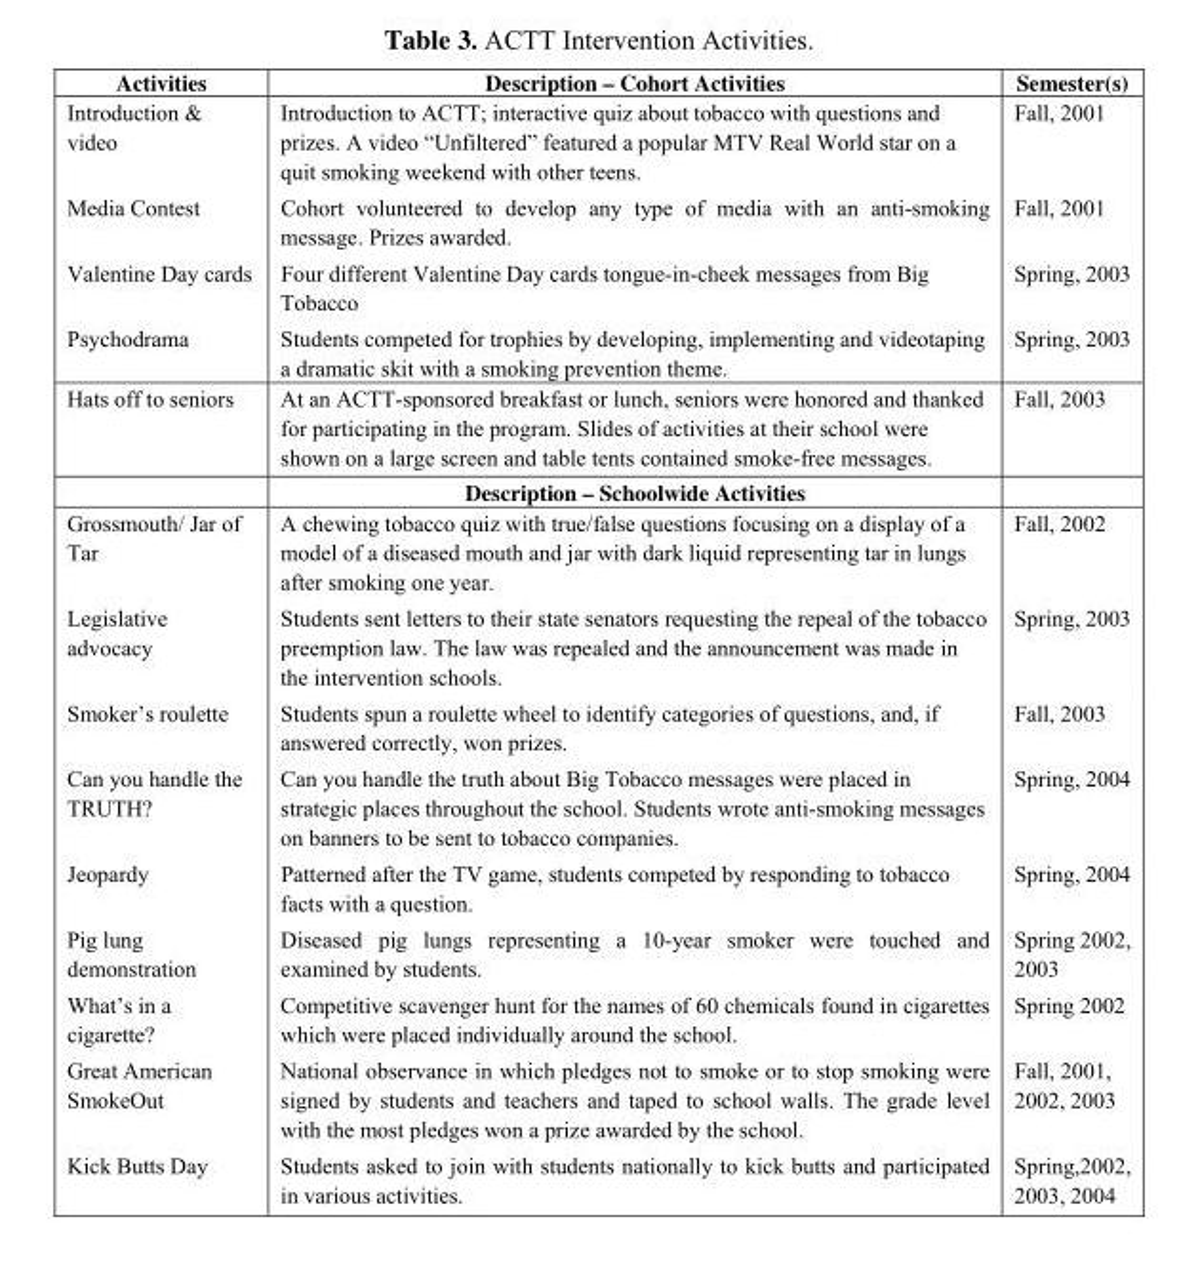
<table><thead><tr><td>Activities</td><td>Description – Cohort Activities</td><td>Semester(s)</td></tr></thead><tbody><tr><td>Introduction &amp; video</td><td>Introduction to ACTT; interactive quiz about tobacco with questions and prizes. A video “Unfiltered” featured a popular MTV Real World star on a quit smoking weekend with other teens.</td><td>Fall, 2001</td></tr><tr><td>Media Contest</td><td>Cohort volunteered to develop any type of media with an anti-smoking message. Prizes awarded.</td><td>Fall, 2001</td></tr><tr><td>Valentine Day cards</td><td>Four different Valentine Day cards tongue-in-cheek messages from Big Tobacco</td><td>Spring, 2003</td></tr><tr><td>Psychodrama</td><td>Students competed for trophies by developing, implementing and videotaping a dramatic skit with a smoking prevention theme.</td><td>Spring, 2003</td></tr><tr><td rowspan="2">Hats off to seniors</td><td>At an ACTT-sponsored breakfast or lunch, seniors were honored and thanked for participating in the program. Slides of activities at their school were shown on a large screen and table tents contained smoke-free messages.</td><td>Fall, 2003</td></tr><tr><td>Description – Schoolwide Activities</td><td></td></tr><tr><td>Grossmouth/ Jar of Tar</td><td>A chewing tobacco quiz with true/false questions focusing on a display of a model of a diseased mouth and jar with dark liquid representing tar in lungs after smoking one year.</td><td>Fall, 2002</td></tr><tr><td>Legislative advocacy</td><td>Students sent letters to their state senators requesting the repeal of the tobacco preemption law. The law was repealed and the announcement was made in the intervention schools.</td><td>Spring, 2003</td></tr><tr><td>Smoker’s roulette</td><td>Students spun a roulette wheel to identify categories of questions, and, if answered correctly, won prizes.</td><td>Fall, 2003</td></tr><tr><td>Can you handle the TRUTH?</td><td>Can you handle the truth about Big Tobacco messages were placed in strategic places throughout the school. Students wrote anti-smoking messages on banners to be sent to tobacco companies.</td><td>Spring, 2004</td></tr><tr><td>Jeopardy</td><td>Patterned after the TV game, students competed by responding to tobacco facts with a question.</td><td>Spring, 2004</td></tr><tr><td>Pig lung demonstration</td><td>Diseased pig lungs representing a 10-year smoker were touched and examined by students.</td><td>Spring 2002, 2003</td></tr><tr><td>What’s in a cigarette?</td><td>Competitive scavenger hunt for the names of 60 chemicals found in cigarettes which were placed individually around the school.</td><td>Spring 2002</td></tr><tr><td>Great American SmokeOut</td><td>National observance in which pledges not to smoke or to stop smoking were signed by students and teachers and taped to school walls. The grade level with the most pledges won a prize awarded by the school.</td><td>Fall, 2001, 2002, 2003</td></tr><tr><td>Kick Butts Day</td><td>Students asked to join with students nationally to kick butts and participated in various activities.</td><td>Spring,2002, 2003, 2004</td></tr></tbody></table>